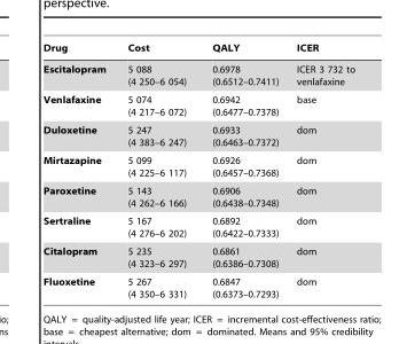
<table><thead><tr><td>Drug</td><td>Cost</td><td>QALY</td><td>ICER</td></tr></thead><tbody><tr><td>Escitalopram</td><td>5 088 (4 250–6 054)</td><td>0.6978 (0.6512–0.7411)</td><td>ICER 3 732 to venlafaxine</td></tr><tr><td>Venlafaxine</td><td>5 074 (4 217–6 072)</td><td>0.6942 (0.6477–0.7378)</td><td>base</td></tr><tr><td>Duloxetine</td><td>5 247 (4 383–6 247)</td><td>0.6933 (0.6463–0.7372)</td><td>dom</td></tr><tr><td>Mirtazapine</td><td>5 099 (4 225–6 117)</td><td>0.6926 (0.6457–0.7368)</td><td>dom</td></tr><tr><td>Paroxetine</td><td>5 143 (4 262–6 166)</td><td>0.6906 (0.6438–0.7348)</td><td>dom</td></tr><tr><td>Sertraline</td><td>5 167 (4 276–6 202)</td><td>0.6892 (0.6422–0.7333)</td><td>dom</td></tr><tr><td>Citalopram</td><td>5 235 (4 323–6 297)</td><td>0.6861 (0.6386–0.7308)</td><td>dom</td></tr><tr><td>Fluoxetine</td><td>5 267 (4 350–6 331)</td><td>0.6847 (0.6373–0.7293)</td><td>dom</td></tr></tbody></table>